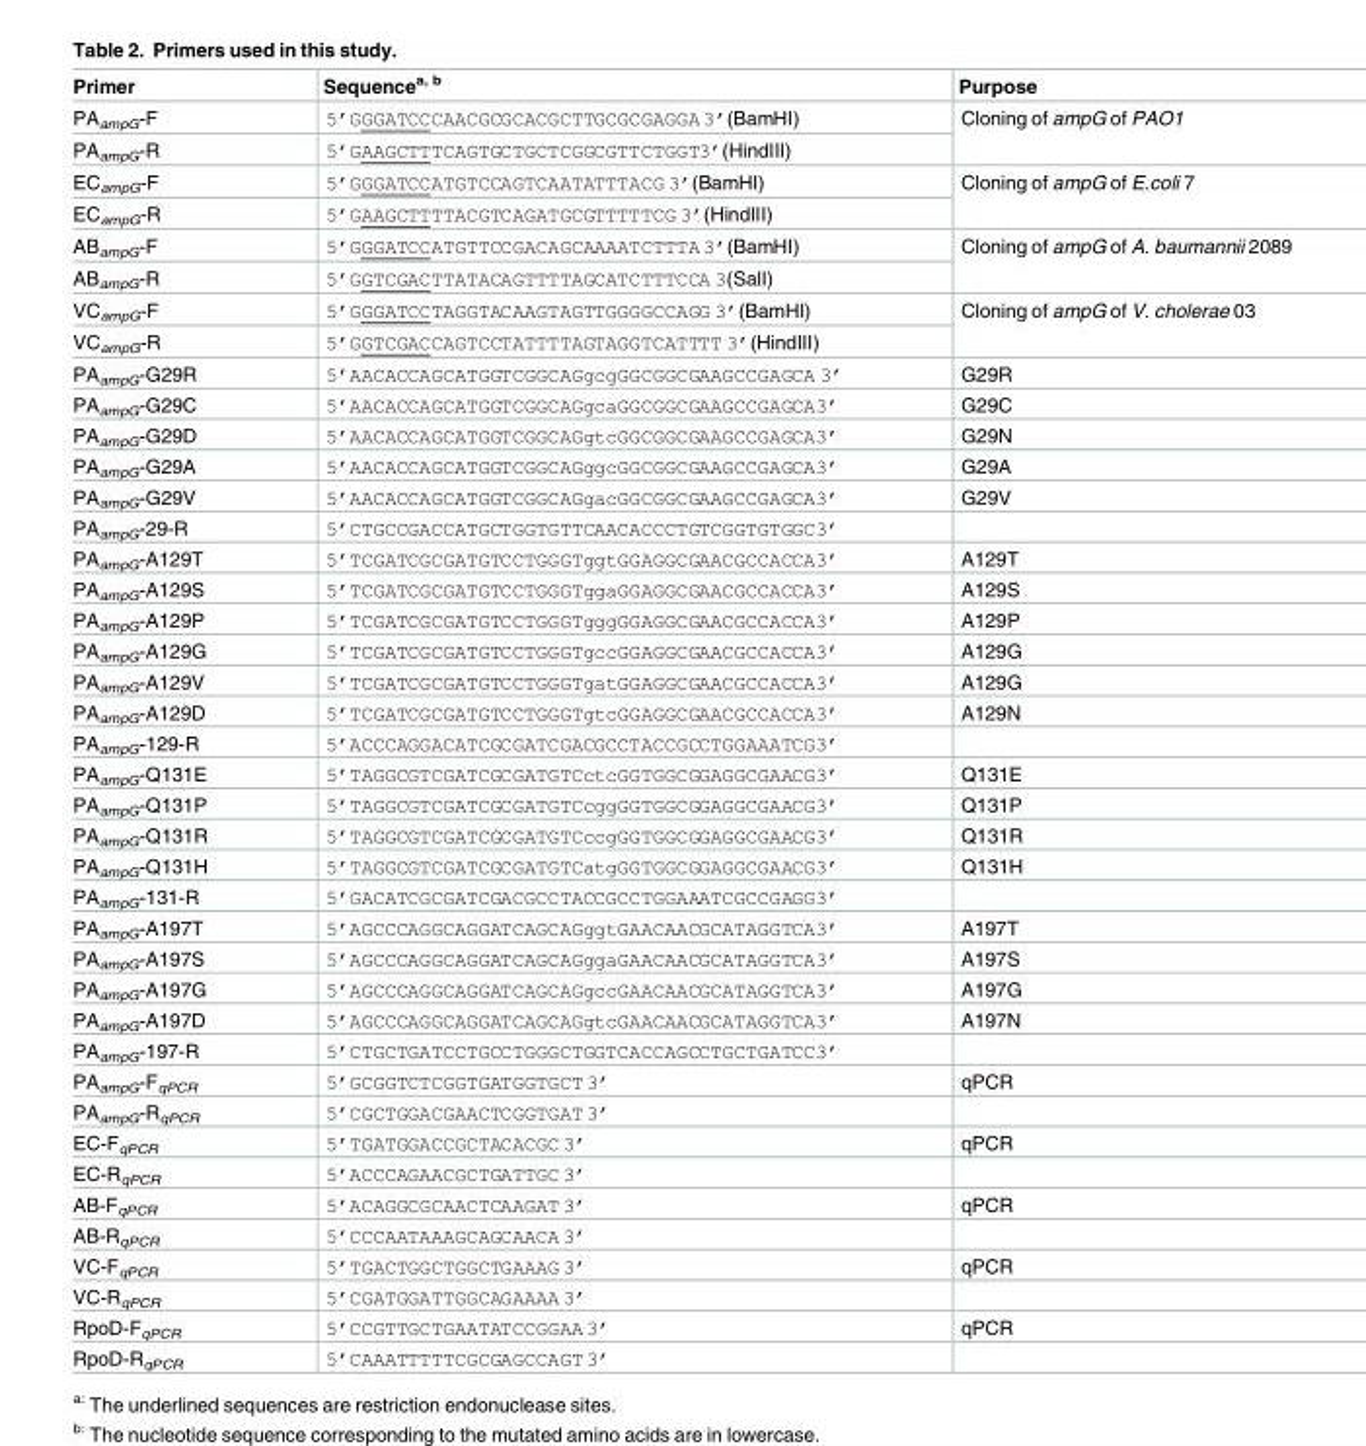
<table><thead><tr><td>Primer</td><td>Sequence<sup>a, b</sup></td><td>Purpose</td></tr></thead><tbody><tr><td>PA<sub>ampG</sub>-F</td><td>5’GGGATCCCAACGCGCACGCTTGCGCGAGGA 3’(BamHI)</td><td rowspan="2">Cloning of ampG of PAO1</td></tr><tr><td>PA<sub>ampG</sub>-R</td><td>5’GAAGCTTTCAGTGCTGCTCGGCGTTCTGGT3’(HindIII)</td></tr><tr><td>EC<sub>ampG</sub>-F</td><td>5’GGGATCCATGTCCAGTCAATATTTACG 3’(BamHI)</td><td rowspan="2">Cloning of ampG of E.coli 7</td></tr><tr><td>EC<sub>ampG</sub>-R</td><td>5’GAAGCTTTTACGTCAGATGCGTTTTTCG 3’(HindIII)</td></tr><tr><td>AB<sub>ampG</sub>-F</td><td>5’GGGATCCATGTTCCGACAGCAAAATCTTTA 3’(BamHI)</td><td rowspan="2">Cloning of ampG of A. baumannii 2089</td></tr><tr><td>AB<sub>ampG</sub>-R</td><td>5’GGTCGACTTATACAGTTTTAGCATCTTTCCA 3(SalI)</td></tr><tr><td>VC<sub>ampG</sub>-F</td><td>5’GGGATCCTAGGTACAAGTAGTTGGGGCCAGG 3’(BamHI)</td><td rowspan="2">Cloning of ampG of V. cholerae 03</td></tr><tr><td>VC<sub>ampG</sub>-R</td><td>5’GGTCGACCAGTCCTATTTTAGTAGGTCATTTT 3’(HindIII)</td></tr><tr><td>PA<sub>ampG</sub>-G29R</td><td>5’AACACCAGCATGGTCGGCAGgcgGGCGGCGAAGCCGAGCA 3’</td><td>G29R</td></tr><tr><td>PA<sub>ampG</sub>-G29C</td><td>5’AACACCAGCATGGTCGGCAGgcaGGCGGCGAAGCCGAGCA3’</td><td>G29C</td></tr><tr><td>PA<sub>ampG</sub>-G29D</td><td>5’AACACCAGCATGGTCGGCAGgtcGGCGGCGAAGCCGAGCA3’</td><td>G29N</td></tr><tr><td>PA<sub>ampG</sub>-G29A</td><td>5’AACACCAGCATGGTCGGCAGggcGGCGGCGAAGCCGAGCA3’</td><td>G29A</td></tr><tr><td>PA<sub>ampG</sub>-G29V</td><td>5’AACACCAGCATGGTCGGCAGgacGGCGGCGAAGCCGAGCA3’</td><td>G29V</td></tr><tr><td>PA<sub>ampG</sub>-29-R</td><td>5’CTGCCGACCATGCTGGTGTTCAACACCCTGTCGGTGTGGC3’</td><td></td></tr><tr><td>PA<sub>ampG</sub>-A129T</td><td>5’TCGATCGCGATGTCCTGGGTggtGGAGGCGAACGCCACCA3’</td><td>A129T</td></tr><tr><td>PA<sub>ampG</sub>-A129S</td><td>5’TCGATCGCGATGTCCTGGGTggaGGAGGCGAACGCCACCA3’</td><td>A129S</td></tr><tr><td>PA<sub>ampG</sub>-A129P</td><td>5’TCGATCGCGATGTCCTGGGTgggGGAGGCGAACGCCACCA3’</td><td>A129P</td></tr><tr><td>PA<sub>ampG</sub>-A129G</td><td>5’TCGATCGCGATGTCCTGGGTgccGGAGGCGAACGCCACCA3’</td><td>A129G</td></tr><tr><td>PA<sub>ampG</sub>-A129V</td><td>5’TCGATCGCGATGTCCTGGGTgatGGAGGCGAACGCCACCA3’</td><td>A129G</td></tr><tr><td>PA<sub>ampG</sub>-A129D</td><td>5’TCGATCGCGATGTCCTGGGTgtcGGAGGCGAACGCCACCA3’</td><td>A129N</td></tr><tr><td>PA<sub>ampG</sub>-129-R</td><td>5’ACCCAGGACATCGCGATCGACGCCTACCGCCTGGAAATCG3’</td><td></td></tr><tr><td>PA<sub>ampG</sub>-Q131E</td><td>5’TAGGCGTCGATCGCGATGTCctcGGTGGCGGAGGCGAACG3’</td><td>Q131E</td></tr><tr><td>PA<sub>ampG</sub>-Q131P</td><td>5’TAGGCGTCGATCGCGATGTCcggGGTGGCGGAGGCGAACG3’</td><td>Q131P</td></tr><tr><td>PA<sub>ampG</sub>-Q131R</td><td>5’TAGGCGTCGATCGCGATGTCccgGGTGGCGGAGGCGAACG3’</td><td>Q131R</td></tr><tr><td>PA<sub>ampG</sub>-Q131H</td><td>5’TAGGCGTCGATCGCGATGTCatgGGTGGCGGAGGCGAACG3’</td><td>Q131H</td></tr><tr><td>PA<sub>ampG</sub>-131-R</td><td>5’GACATCGCGATCGACGCCTACCGCCTGGAAATCGCCGAGG3’</td><td></td></tr><tr><td>PA<sub>ampG</sub>-A197T</td><td>5’AGCCCAGGCAGGATCAGCAGggtGAACAACGCATAGGTCA3’</td><td>A197T</td></tr><tr><td>PA<sub>ampG</sub>-A197S</td><td>5’AGCCCAGGCAGGATCAGCAGggaGAACAACGCATAGGTCA3’</td><td>A197S</td></tr><tr><td>PA<sub>ampG</sub>-A197G</td><td>5’AGCCCAGGCAGGATCAGCAGgccGAACAACGCATAGGTCA3’</td><td>A197G</td></tr><tr><td>PA<sub>ampG</sub>-A197D</td><td>5’AGCCCAGGCAGGATCAGCAGgtcGAACAACGCATAGGTCA3’</td><td>A197N</td></tr><tr><td>PA<sub>ampG</sub>-197-R</td><td>5’CTGCTGATCCTGCCTGGGCTGGTCACCAGCCTGCTGATCC3’</td><td></td></tr><tr><td>PA<sub>ampG</sub>-F<sub>qPCR</sub></td><td>5’GCGGTCTCGGTGATGGTGCT 3’</td><td>qPCR</td></tr><tr><td>PA<sub>ampG</sub>-R<sub>qPCR</sub></td><td>5’CGCTGGACGAACTCGGTGAT 3’</td><td></td></tr><tr><td>EC-F<sub>qPCR</sub></td><td>5’TGATGGACCGCTACACGC 3’</td><td>qPCR</td></tr><tr><td>EC-R<sub>qPCR</sub></td><td>5’ACCCAGAACGCTGATTGC 3’</td><td></td></tr><tr><td>AB-F<sub>qPCR</sub></td><td>5’ACAGGCGCAACTCAAGAT 3’</td><td>qPCR</td></tr><tr><td>AB-R<sub>qPCR</sub></td><td>5’CCCAATAAAGCAGCAACA 3’</td><td></td></tr><tr><td>VC-F<sub>qPCR</sub></td><td>5’TGACTGGCTGGCTGAAAG 3’</td><td>qPCR</td></tr><tr><td>VC-R<sub>qPCR</sub></td><td>5’CGATGGATTGGCAGAAAA 3’</td><td></td></tr><tr><td>RpoD-F<sub>qPCR</sub></td><td>5’CCGTTGCTGAATATCCGGAA 3’</td><td>qPCR</td></tr><tr><td>RpoD-R<sub>qPCR</sub></td><td>5’CAAATTTTTCGCGAGCCAGT 3’</td><td></td></tr></tbody></table>